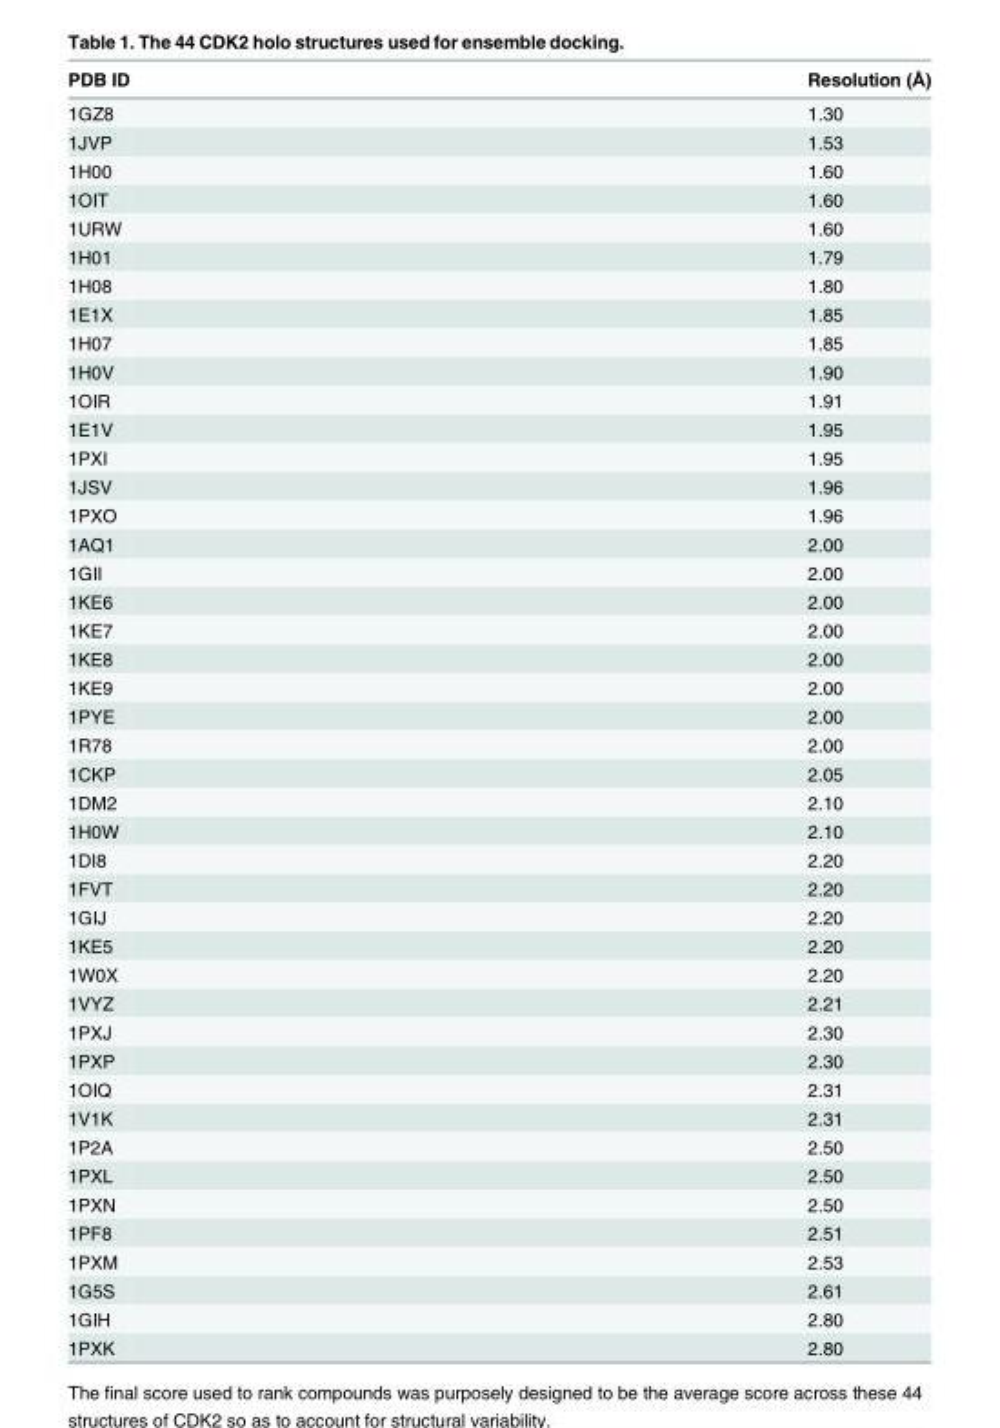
<table><thead><tr><td>PDB ID</td><td>Resolution (Å)</td></tr></thead><tbody><tr><td>1GZ8</td><td>1.30</td></tr><tr><td>1JVP</td><td>1.53</td></tr><tr><td>1H00</td><td>1.60</td></tr><tr><td>1OIT</td><td>1.60</td></tr><tr><td>1URW</td><td>1.60</td></tr><tr><td>1H01</td><td>1.79</td></tr><tr><td>1H08</td><td>1.80</td></tr><tr><td>1E1X</td><td>1.85</td></tr><tr><td>1H07</td><td>1.85</td></tr><tr><td>1H0V</td><td>1.90</td></tr><tr><td>1OIR</td><td>1.91</td></tr><tr><td>1E1V</td><td>1.95</td></tr><tr><td>1PXI</td><td>1.95</td></tr><tr><td>1JSV</td><td>1.96</td></tr><tr><td>1PXO</td><td>1.96</td></tr><tr><td>1AQ1</td><td>2.00</td></tr><tr><td>1GII</td><td>2.00</td></tr><tr><td>1KE6</td><td>2.00</td></tr><tr><td>1KE7</td><td>2.00</td></tr><tr><td>1KE8</td><td>2.00</td></tr><tr><td>1KE9</td><td>2.00</td></tr><tr><td>1PYE</td><td>2.00</td></tr><tr><td>1R78</td><td>2.00</td></tr><tr><td>1CKP</td><td>2.05</td></tr><tr><td>1DM2</td><td>2.10</td></tr><tr><td>1H0W</td><td>2.10</td></tr><tr><td>1DI8</td><td>2.20</td></tr><tr><td>1FVT</td><td>2.20</td></tr><tr><td>1GIJ</td><td>2.20</td></tr><tr><td>1KE5</td><td>2.20</td></tr><tr><td>1W0X</td><td>2.20</td></tr><tr><td>1VYZ</td><td>2.21</td></tr><tr><td>1PXJ</td><td>2.30</td></tr><tr><td>1PXP</td><td>2.30</td></tr><tr><td>1OIQ</td><td>2.31</td></tr><tr><td>1V1K</td><td>2.31</td></tr><tr><td>1P2A</td><td>2.50</td></tr><tr><td>1PXL</td><td>2.50</td></tr><tr><td>1PXN</td><td>2.50</td></tr><tr><td>1PF8</td><td>2.51</td></tr><tr><td>1PXM</td><td>2.53</td></tr><tr><td>1G5S</td><td>2.61</td></tr><tr><td>1GIH</td><td>2.80</td></tr><tr><td>1PXK</td><td>2.80</td></tr></tbody></table>